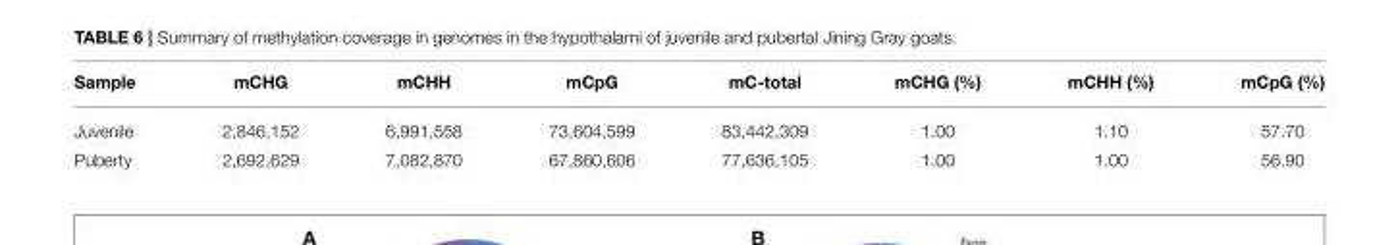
<table><thead><tr><td>Sample</td><td>mCHG</td><td>mCHH</td><td>mCpG</td><td>mC-total</td><td>mCHG (%)</td><td>mCHH (%)</td><td>mCpG (%)</td></tr></thead><tbody><tr><td>Juvenile</td><td>2,846,152</td><td>6,991,558</td><td>73,604,599</td><td>83,442,309</td><td>1.00</td><td>1.10</td><td>57.70</td></tr><tr><td>Puberty</td><td>2,692,629</td><td>7,082,870</td><td>67,860,606</td><td>77,636,105</td><td>1.00</td><td>1.00</td><td>56.90</td></tr></tbody></table>